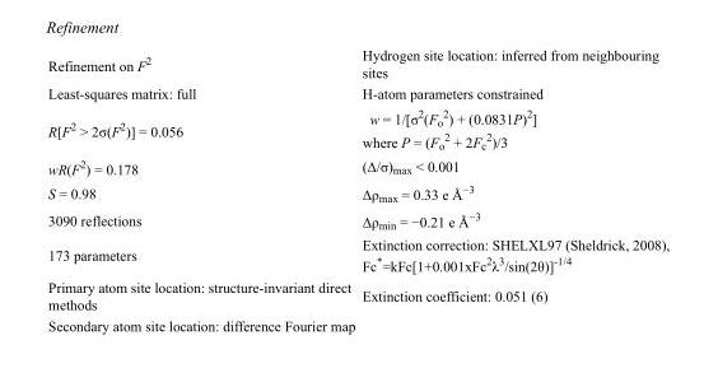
<table><tbody><tr><td>Refinement on F<sup>2</sup></td><td>Hydrogen site location: inferred from neighbouring sites</td></tr><tr><td>Least-squares matrix: full</td><td>H-atom parameters constrained</td></tr><tr><td>R[F<sup>2</sup> &gt; 2σ(F<sup>2</sup>)] = 0.056</td><td>w = 1/[σ<sup>2</sup>(F<sub>o</sub> <sup>2</sup>) + (0.0831P)<sup>2</sup>] where P = (F<sub>o</sub> <sup>2</sup> + 2F<sub>c</sub> <sup>2</sup>)/3</td></tr><tr><td>wR(F<sup>2</sup>) = 0.178</td><td>(Δ/σ)<sub>max</sub> &lt; 0.001</td></tr><tr><td>S = 0.98</td><td>Δρ<sub>max</sub> = 0.33 e Å<sup>−3</sup></td></tr><tr><td>3090 reflections</td><td>Δρ<sub>min</sub> = −0.21 e Å<sup>−3</sup></td></tr><tr><td>173 parameters</td><td>Extinction correction: SHELXL97 (Sheldrick, 2008), Fc*=kFc[1+0.001xFc<sup>2</sup>λ<sup>3</sup>/sin(2θ)]<sup>-1/4</sup></td></tr><tr><td>Primary atom site location: structure-invariant direct methods</td><td>Extinction coefficient: 0.051 (6)</td></tr><tr><td>Secondary atom site location: difference Fourier map</td><td></td></tr></tbody></table>